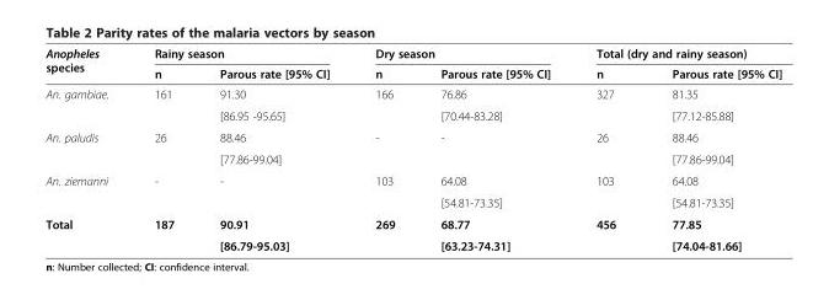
<table><thead><tr><td rowspan="2">Anopheles species</td><td colspan="2">Rainy season</td><td colspan="2">Dry season</td><td colspan="2">Total (dry and rainy season)</td></tr><tr><td>n</td><td>Parous rate [95% CI]</td><td>n</td><td>Parous rate [95% CI]</td><td>n</td><td>Parous rate [95% CI]</td></tr></thead><tbody><tr><td rowspan="2">An. gambiae.</td><td>161</td><td>91.30</td><td>166</td><td>76.86</td><td>327</td><td>81.35</td></tr><tr><td></td><td>[86.95 -95.65]</td><td></td><td>[70.44-83.28]</td><td></td><td>[77.12-85.88]</td></tr><tr><td rowspan="2">An. paludis</td><td>26</td><td>88.46</td><td>-</td><td>-</td><td>26</td><td>88.46</td></tr><tr><td></td><td>[77.86-99.04]</td><td></td><td></td><td></td><td>[77.86-99.04]</td></tr><tr><td rowspan="2">An. ziemanni</td><td>-</td><td>-</td><td>103</td><td>64.08</td><td>103</td><td>64.08</td></tr><tr><td></td><td></td><td></td><td>[54.81-73.35]</td><td></td><td>[54.81-73.35]</td></tr><tr><td rowspan="2">Total</td><td>187</td><td>90.91</td><td>269</td><td>68.77</td><td>456</td><td>77.85</td></tr><tr><td></td><td>[86.79-95.03]</td><td></td><td>[63.23-74.31]</td><td></td><td>[74.04-81.66]</td></tr></tbody></table>